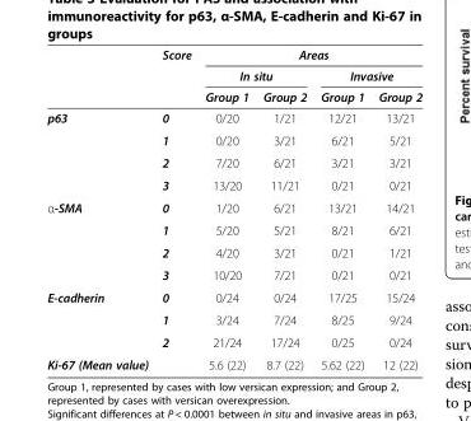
<table><thead><tr><td rowspan="3"></td><td rowspan="3">Score</td><td colspan="4">Areas</td></tr><tr><td colspan="2">In situ</td><td colspan="2">Invasive</td></tr><tr><td>Group 1</td><td>Group 2</td><td>Group 1</td><td>Group 2</td></tr></thead><tbody><tr><td rowspan="4">p63</td><td>0</td><td>0/20</td><td>1/21</td><td>12/21</td><td>13/21</td></tr><tr><td>1</td><td>0/20</td><td>3/21</td><td>6/21</td><td>5/21</td></tr><tr><td>2</td><td>7/20</td><td>6/21</td><td>3/21</td><td>3/21</td></tr><tr><td>3</td><td>13/20</td><td>11/21</td><td>0/21</td><td>0/21</td></tr><tr><td rowspan="4">α-SMA</td><td>0</td><td>1/20</td><td>6/21</td><td>13/21</td><td>14/21</td></tr><tr><td>1</td><td>5/20</td><td>5/21</td><td>8/21</td><td>6/21</td></tr><tr><td>2</td><td>4/20</td><td>3/21</td><td>0/21</td><td>1/21</td></tr><tr><td>3</td><td>10/20</td><td>7/21</td><td>0/21</td><td>0/21</td></tr><tr><td rowspan="3">E-cadherin</td><td>0</td><td>0/24</td><td>0/24</td><td>17/25</td><td>15/24</td></tr><tr><td>1</td><td>3/24</td><td>7/24</td><td>8/25</td><td>9/24</td></tr><tr><td>2</td><td>21/24</td><td>17/24</td><td>0/25</td><td>0/24</td></tr><tr><td>Ki-67 (Mean value)</td><td></td><td>5.6 (22)</td><td>8.7 (22)</td><td>5.62 (22)</td><td>12 (22)</td></tr></tbody></table>